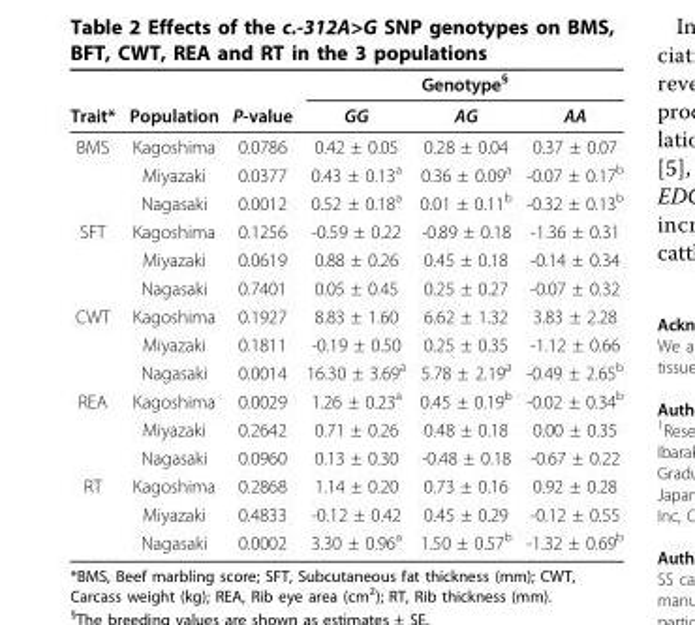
<table><thead><tr><td rowspan="2">Trait*</td><td rowspan="2">Population</td><td rowspan="2">P-value</td><td colspan="3">Genotype<sup>§</sup></td></tr><tr><td>GG</td><td>AG</td><td>AA</td></tr></thead><tbody><tr><td rowspan="3">BMS</td><td>Kagoshima</td><td>0.0786</td><td>0.42 ± 0.05</td><td>0.28 ± 0.04</td><td>0.37 ± 0.07</td></tr><tr><td>Miyazaki</td><td>0.0377</td><td>0.43 ± 0.13<sup>a</sup></td><td>0.36 ± 0.09<sup>a</sup></td><td>-0.07 ± 0.17<sup>b</sup></td></tr><tr><td>Nagasaki</td><td>0.0012</td><td>0.52 ± 0.18<sup>a</sup></td><td>0.01 ± 0.11<sup>b</sup></td><td>-0.32 ± 0.13<sup>b</sup></td></tr><tr><td rowspan="3">SFT</td><td>Kagoshima</td><td>0.1256</td><td>-0.59 ± 0.22</td><td>-0.89 ± 0.18</td><td>-1.36 ± 0.31</td></tr><tr><td>Miyazaki</td><td>0.0619</td><td>0.88 ± 0.26</td><td>0.45 ± 0.18</td><td>-0.14 ± 0.34</td></tr><tr><td>Nagasaki</td><td>0.7401</td><td>0.05 ± 0.45</td><td>0.25 ± 0.27</td><td>-0.07 ± 0.32</td></tr><tr><td rowspan="3">CWT</td><td>Kagoshima</td><td>0.1927</td><td>8.83 ± 1.60</td><td>6.62 ± 1.32</td><td>3.83 ± 2.28</td></tr><tr><td>Miyazaki</td><td>0.1811</td><td>-0.19 ± 0.50</td><td>0.25 ± 0.35</td><td>-1.12 ± 0.66</td></tr><tr><td>Nagasaki</td><td>0.0014</td><td>16.30 ± 3.69<sup>a</sup></td><td>5.78 ± 2.19<sup>a</sup></td><td>-0.49 ± 2.65<sup>b</sup></td></tr><tr><td rowspan="3">REA</td><td>Kagoshima</td><td>0.0029</td><td>1.26 ± 0.23<sup>a</sup></td><td>0.45 ± 0.19<sup>b</sup></td><td>-0.02 ± 0.34<sup>b</sup></td></tr><tr><td>Miyazaki</td><td>0.2642</td><td>0.71 ± 0.26</td><td>0.48 ± 0.18</td><td>0.00 ± 0.35</td></tr><tr><td>Nagasaki</td><td>0.0960</td><td>0.13 ± 0.30</td><td>-0.48 ± 0.18</td><td>-0.67 ± 0.22</td></tr><tr><td rowspan="3">RT</td><td>Kagoshima</td><td>0.2868</td><td>1.14 ± 0.20</td><td>0.73 ± 0.16</td><td>0.92 ± 0.28</td></tr><tr><td>Miyazaki</td><td>0.4833</td><td>-0.12 ± 0.42</td><td>0.45 ± 0.29</td><td>-0.12 ± 0.55</td></tr><tr><td>Nagasaki</td><td>0.0002</td><td>3.30 ± 0.96<sup>a</sup></td><td>1.50 ± 0.57<sup>b</sup></td><td>-1.32 ± 0.69<sup>b</sup></td></tr></tbody></table>